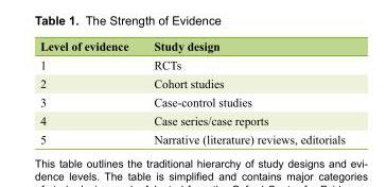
<table><thead><tr><td>Level of evidence</td><td>Study design</td></tr></thead><tbody><tr><td>1</td><td>RCTs</td></tr><tr><td>2</td><td>Cohort studies</td></tr><tr><td>3</td><td>Case-control studies</td></tr><tr><td>4</td><td>Case series/case reports</td></tr><tr><td>5</td><td>Narrative (literature) reviews, editorials</td></tr></tbody></table>